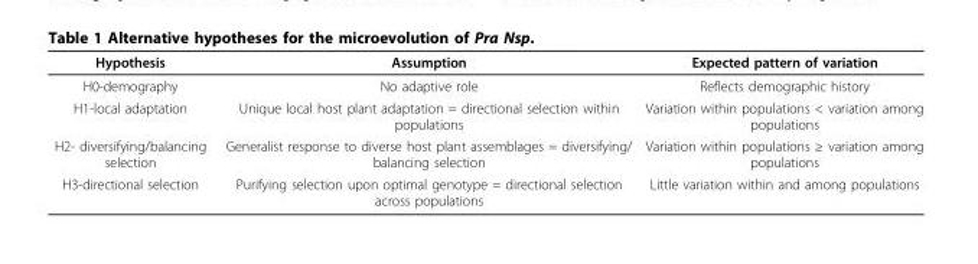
<table><thead><tr><td>Hypothesis</td><td>Assumption</td><td>Expected pattern of variation</td></tr></thead><tbody><tr><td>H0-demography</td><td>No adaptive role</td><td>Reflects demographic history</td></tr><tr><td>H1-local adaptation</td><td>Unique local host plant adaptation = directional selection within populations</td><td>Variation within populations &lt; variation among populations</td></tr><tr><td>H2- diversifying/balancing selection</td><td>Generalist response to diverse host plant assemblages = diversifying/ balancing selection</td><td>Variation within populations ≥ variation among populations</td></tr><tr><td>H3-directional selection</td><td>Purifying selection upon optimal genotype = directional selection across populations</td><td>Little variation within and among populations</td></tr></tbody></table>